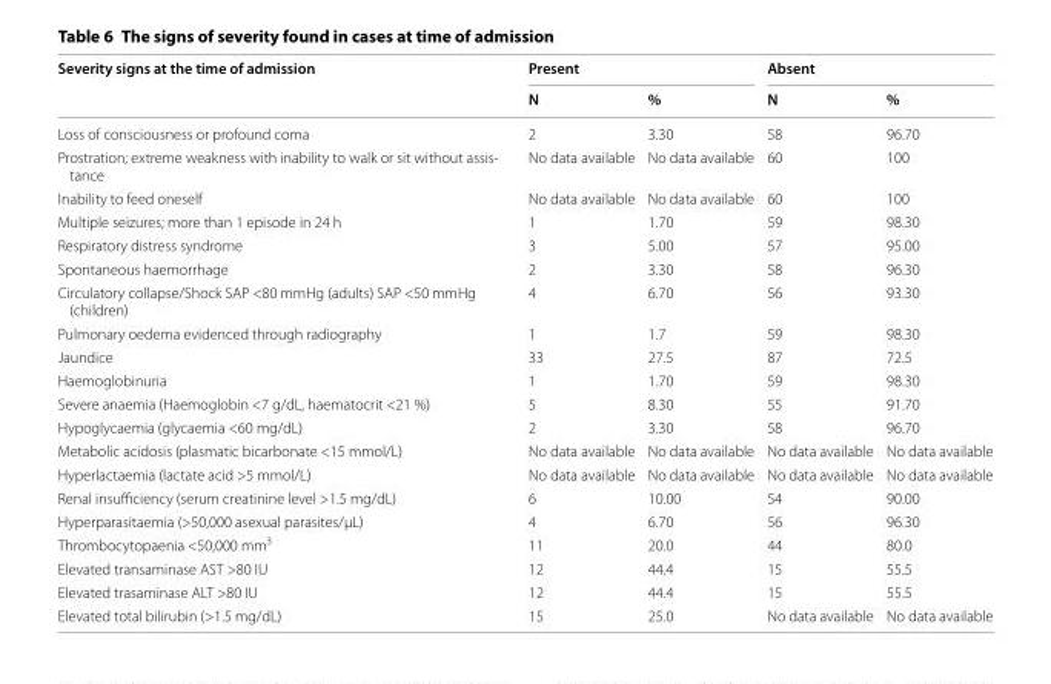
<table><thead><tr><td rowspan="2">Severity signs at the time of admission</td><td colspan="2">Present</td><td colspan="2">Absent</td></tr><tr><td>N</td><td>%</td><td>N</td><td>%</td></tr></thead><tbody><tr><td>Loss of consciousness or profound coma</td><td>2</td><td>3.30</td><td>58</td><td>96.70</td></tr><tr><td>Prostration; extreme weakness with inability to walk or sit without assis- tance</td><td>No data available</td><td>No data available</td><td>60</td><td>100</td></tr><tr><td>Inability to feed oneself</td><td>No data available</td><td>No data available</td><td>60</td><td>100</td></tr><tr><td>Multiple seizures; more than 1 episode in 24 h</td><td>1</td><td>1.70</td><td>59</td><td>98.30</td></tr><tr><td>Respiratory distress syndrome</td><td>3</td><td>5.00</td><td>57</td><td>95.00</td></tr><tr><td>Spontaneous haemorrhage</td><td>2</td><td>3.30</td><td>58</td><td>96.30</td></tr><tr><td>Circulatory collapse/Shock SAP &lt;80 mmHg (adults) SAP &lt;50 mmHg (children)</td><td>4</td><td>6.70</td><td>56</td><td>93.30</td></tr><tr><td>Pulmonary oedema evidenced through radiography</td><td>1</td><td>1.7</td><td>59</td><td>98.30</td></tr><tr><td>Jaundice</td><td>33</td><td>27.5</td><td>87</td><td>72.5</td></tr><tr><td>Haemoglobinuria</td><td>1</td><td>1.70</td><td>59</td><td>98.30</td></tr><tr><td>Severe anaemia (Haemoglobin &lt;7 g/dL, haematocrit &lt;21 %)</td><td>5</td><td>8.30</td><td>55</td><td>91.70</td></tr><tr><td>Hypoglycaemia (glycaemia &lt;60 mg/dL)</td><td>2</td><td>3.30</td><td>58</td><td>96.70</td></tr><tr><td>Metabolic acidosis (plasmatic bicarbonate &lt;15 mmol/L)</td><td>No data available</td><td>No data available</td><td>No data available</td><td>No data available</td></tr><tr><td>Hyperlactaemia (lactate acid &gt;5 mmol/L)</td><td>No data available</td><td>No data available</td><td>No data available</td><td>No data available</td></tr><tr><td>Renal insufficiency (serum creatinine level &gt;1.5 mg/dL)</td><td>6</td><td>10.00</td><td>54</td><td>90.00</td></tr><tr><td>Hyperparasitaemia (&gt;50,000 asexual parasites/μL)</td><td>4</td><td>6.70</td><td>56</td><td>96.30</td></tr><tr><td>Thrombocytopaenia &lt;50,000 mm<sup>3</sup></td><td>11</td><td>20.0</td><td>44</td><td>80.0</td></tr><tr><td>Elevated transaminase AST &gt;80 IU</td><td>12</td><td>44.4</td><td>15</td><td>55.5</td></tr><tr><td>Elevated trasaminase ALT &gt;80 IU</td><td>12</td><td>44.4</td><td>15</td><td>55.5</td></tr><tr><td>Elevated total bilirubin (&gt;1.5 mg/dL)</td><td>15</td><td>25.0</td><td>No data available</td><td>No data available</td></tr></tbody></table>